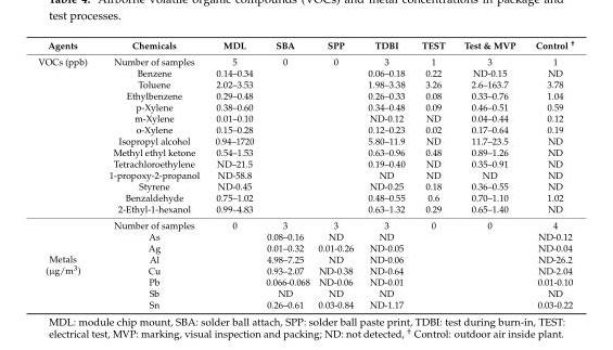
<table><thead><tr><td>Agents</td><td>Chemicals</td><td>MDL</td><td>SBA</td><td>SPP</td><td>TDBI</td><td>TEST</td><td>Test &amp; MVP</td><td>Control <sup>†</sup></td></tr></thead><tbody><tr><td rowspan="14">VOCs (ppb)</td><td>Number of samples</td><td>5</td><td>0</td><td>0</td><td>3</td><td>1</td><td>3</td><td>1</td></tr><tr><td>Benzene</td><td>0.14–0.34</td><td></td><td></td><td>0.06–0.18</td><td>0.22</td><td>ND-0.15</td><td>ND</td></tr><tr><td>Toluene</td><td>2.02–3.53</td><td></td><td></td><td>1.98–3.38</td><td>3.26</td><td>2.6–163.7</td><td>3.78</td></tr><tr><td>Ethylbenzene</td><td>0.29–0.48</td><td></td><td></td><td>0.26–0.33</td><td>0.08</td><td>0.33–0.76</td><td>1.04</td></tr><tr><td>p-Xylene</td><td>0.38–0.60</td><td></td><td></td><td>0.34–0.48</td><td>0.09</td><td>0.46–0.51</td><td>0.59</td></tr><tr><td>m-Xylene</td><td>0.01–0.10</td><td></td><td></td><td>ND-0.12</td><td>ND</td><td>0.04–0.44</td><td>0.12</td></tr><tr><td>o-Xylene</td><td>0.15–0.28</td><td></td><td></td><td>0.12–0.23</td><td>0.02</td><td>0.17–0.64</td><td>0.19</td></tr><tr><td>Isopropyl alcohol</td><td>0.94–1720</td><td></td><td></td><td>5.80–11.9</td><td>ND</td><td>11.7–23.5</td><td>ND</td></tr><tr><td>Methyl ethyl ketone</td><td>0.54–1.53</td><td></td><td></td><td>0.63–0.96</td><td>0.48</td><td>0.89–1.26</td><td>ND</td></tr><tr><td>Tetrachloroethylene</td><td>ND–21.5</td><td></td><td></td><td>0.19–0.40</td><td>ND</td><td>0.35–0.91</td><td>ND</td></tr><tr><td>1-propoxy-2-propanol</td><td>ND-58.8</td><td></td><td></td><td>ND</td><td>ND</td><td>ND</td><td>ND</td></tr><tr><td>Styrene</td><td>ND-0.45</td><td></td><td></td><td>ND-0.25</td><td>0.18</td><td>0.36–0.55</td><td>ND</td></tr><tr><td>Benzaldehyde</td><td>0.75–1.02</td><td></td><td></td><td>0.48–0.55</td><td>0.6</td><td>0.70–1.10</td><td>1.02</td></tr><tr><td>2-Ethyl-1-hexanol</td><td>0.99–4.83</td><td></td><td></td><td>0.63–1.32</td><td>0.29</td><td>0.65–1.40</td><td>ND</td></tr><tr><td rowspan="8">Metals (µg/m<sup>3</sup>)</td><td>Number of samples</td><td>0</td><td>3</td><td>3</td><td>3</td><td>0</td><td>0</td><td>4</td></tr><tr><td>As</td><td></td><td>0.08–0.16</td><td>ND</td><td>ND</td><td></td><td></td><td>ND-0.12</td></tr><tr><td>Ag</td><td></td><td>0.01–0.32</td><td>0.01-0.26</td><td>ND-0.05</td><td></td><td></td><td>ND-0.04</td></tr><tr><td>Al</td><td></td><td>4.98–7.25</td><td>ND</td><td>ND-0.06</td><td></td><td></td><td>ND-26.2</td></tr><tr><td>Cu</td><td></td><td>0.93–2.07</td><td>ND-0.38</td><td>ND-0.64</td><td></td><td></td><td>ND-2.04</td></tr><tr><td>Pb</td><td></td><td>0.066-0.068</td><td>ND-0.06</td><td>ND-0.01</td><td></td><td></td><td>0.01-0.10</td></tr><tr><td>Sb</td><td></td><td>ND</td><td>ND</td><td>ND</td><td></td><td></td><td>ND</td></tr><tr><td>Sn</td><td></td><td>0.26–0.61</td><td>0.03-0.84</td><td>ND-1.17</td><td></td><td></td><td>0.03-0.22</td></tr></tbody></table>